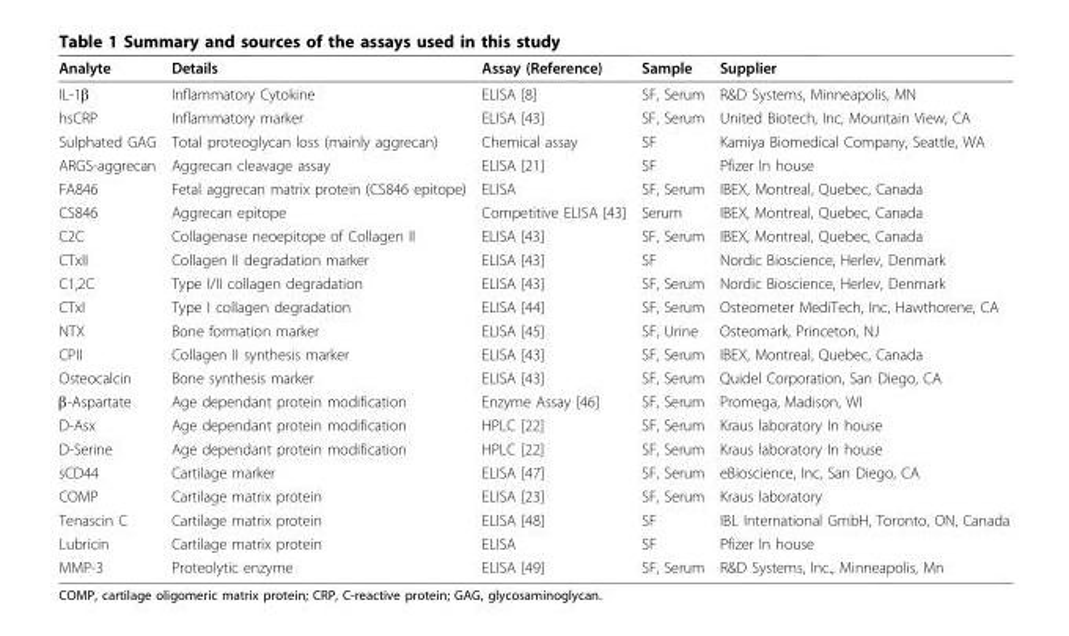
<table><thead><tr><td>Analyte</td><td>Details</td><td>Assay (Reference)</td><td>Sample</td><td>Supplier</td></tr></thead><tbody><tr><td>IL-1β</td><td>Inflammatory Cytokine</td><td>ELISA [8]</td><td>SF, Serum</td><td>R&amp;D Systems, Minneapolis, MN</td></tr><tr><td>hsCRP</td><td>Inflammatory marker</td><td>ELISA [43]</td><td>SF, Serum</td><td>United Biotech, Inc, Mountain View, CA</td></tr><tr><td>Sulphated GAG</td><td>Total proteoglycan loss (mainly aggrecan)</td><td>Chemical assay</td><td>SF</td><td>Kamiya Biomedical Company, Seattle, WA</td></tr><tr><td>ARGS-aggrecan</td><td>Aggrecan cleavage assay</td><td>ELISA [21]</td><td>SF</td><td>Pfizer In house</td></tr><tr><td>FA846</td><td>Fetal aggrecan matrix protein (CS846 epitope)</td><td>ELISA</td><td>SF, Serum</td><td>IBEX, Montreal, Quebec, Canada</td></tr><tr><td>CS846</td><td>Aggrecan epitope</td><td>Competitive ELISA [43]</td><td>Serum</td><td>IBEX, Montreal, Quebec, Canada</td></tr><tr><td>C2C</td><td>Collagenase neoepitope of Collagen II</td><td>ELISA [43]</td><td>SF, Serum</td><td>IBEX, Montreal, Quebec, Canada</td></tr><tr><td>CTxII</td><td>Collagen II degradation marker</td><td>ELISA [43]</td><td>SF</td><td>Nordic Bioscience, Herlev, Denmark</td></tr><tr><td>C1,2C</td><td>Type I/II collagen degradation</td><td>ELISA [43]</td><td>SF, Serum</td><td>Nordic Bioscience, Herlev, Denmark</td></tr><tr><td>CTxI</td><td>Type I collagen degradation</td><td>ELISA [44]</td><td>SF, Serum</td><td>Osteometer MediTech, Inc, Hawthorene, CA</td></tr><tr><td>NTX</td><td>Bone formation marker</td><td>ELISA [45]</td><td>SF, Urine</td><td>Osteomark, Princeton, NJ</td></tr><tr><td>CPII</td><td>Collagen II synthesis marker</td><td>ELISA [43]</td><td>SF, Serum</td><td>IBEX, Montreal, Quebec, Canada</td></tr><tr><td>Osteocalcin</td><td>Bone synthesis marker</td><td>ELISA [43]</td><td>SF, Serum</td><td>Quidel Corporation, San Diego, CA</td></tr><tr><td>β-Aspartate</td><td>Age dependant protein modification</td><td>Enzyme Assay [46]</td><td>SF, Serum</td><td>Promega, Madison, WI</td></tr><tr><td>D-Asx</td><td>Age dependant protein modification</td><td>HPLC [22]</td><td>SF, Serum</td><td>Kraus laboratory In house</td></tr><tr><td>D-Serine</td><td>Age dependant protein modification</td><td>HPLC [22]</td><td>SF, Serum</td><td>Kraus laboratory In house</td></tr><tr><td>sCD44</td><td>Cartilage marker</td><td>ELISA [47]</td><td>SF, Serum</td><td>eBioscience, Inc, San Diego, CA</td></tr><tr><td>COMP</td><td>Cartilage matrix protein</td><td>ELISA [23]</td><td>SF, Serum</td><td>Kraus laboratory</td></tr><tr><td>Tenascin C</td><td>Cartilage matrix protein</td><td>ELISA [48]</td><td>SF</td><td>IBL International GmbH, Toronto, ON, Canada</td></tr><tr><td>Lubricin</td><td>Cartilage matrix protein</td><td>ELISA</td><td>SF</td><td>Pfizer In house</td></tr><tr><td>MMP-3</td><td>Proteolytic enzyme</td><td>ELISA [49]</td><td>SF, Serum</td><td>R&amp;D Systems, Inc., Minneapolis, Mn</td></tr></tbody></table>